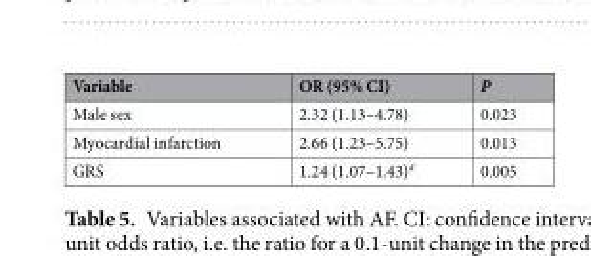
<table><thead><tr><td>Variable</td><td>OR (95% CI)</td><td>P</td></tr></thead><tbody><tr><td>Male sex</td><td>2.32 (1.13–4.78)</td><td>0.023</td></tr><tr><td>Myocardial infarction</td><td>2.66 (1.23–5.75)</td><td>0.013</td></tr><tr><td>GRS</td><td>1.24 (1.07–1.43)<sup>#</sup></td><td>0.005</td></tr></tbody></table>